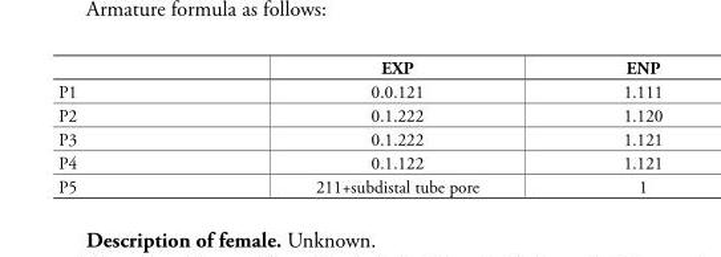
<table><thead><tr><td></td><td>EXP</td><td>ENP</td></tr></thead><tbody><tr><td>P1</td><td>0.0.121</td><td>1.111</td></tr><tr><td>P2</td><td>0.1.222</td><td>1.120</td></tr><tr><td>P3</td><td>0.1.222</td><td>1.121</td></tr><tr><td>P4</td><td>0.1.122</td><td>1.121</td></tr><tr><td>P5</td><td>211+subdistal tube pore</td><td>1</td></tr></tbody></table>